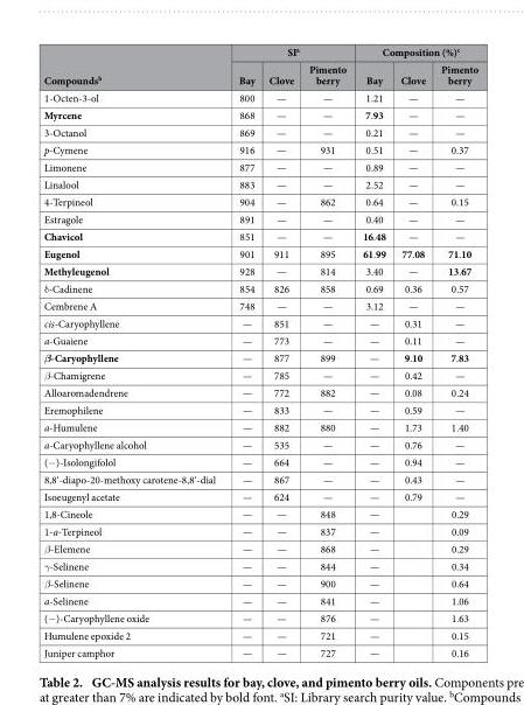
<table><thead><tr><td rowspan="2">Compounds<sup>b</sup></td><td colspan="3">SI<sup>a</sup></td><td colspan="3">Composition (%)<sup>c</sup></td></tr><tr><td>Bay</td><td>Clove</td><td>Pimento berry</td><td>Bay</td><td>Clove</td><td>Pimento berry</td></tr></thead><tbody><tr><td>1-Octen-3-ol</td><td>800</td><td>—</td><td>—</td><td>1.21</td><td>—</td><td>—</td></tr><tr><td>Myrcene</td><td>868</td><td>—</td><td>—</td><td>7.93</td><td>—</td><td>—</td></tr><tr><td>3-Octanol</td><td>869</td><td>—</td><td>—</td><td>0.21</td><td>—</td><td>—</td></tr><tr><td>p-Cymene</td><td>916</td><td>—</td><td>931</td><td>0.51</td><td>—</td><td>0.37</td></tr><tr><td>Limonene</td><td>877</td><td>—</td><td>—</td><td>0.89</td><td>—</td><td>—</td></tr><tr><td>Linalool</td><td>883</td><td>—</td><td>—</td><td>2.52</td><td>—</td><td>—</td></tr><tr><td>4-Terpineol</td><td>904</td><td>—</td><td>862</td><td>0.64</td><td>—</td><td>0.15</td></tr><tr><td>Estragole</td><td>891</td><td>—</td><td>—</td><td>0.40</td><td>—</td><td>—</td></tr><tr><td>Chavicol</td><td>851</td><td>—</td><td>—</td><td>16.48</td><td>—</td><td>—</td></tr><tr><td>Eugenol</td><td>901</td><td>911</td><td>895</td><td>61.99</td><td>77.08</td><td>71.10</td></tr><tr><td>Methyleugenol</td><td>928</td><td>—</td><td>814</td><td>3.40</td><td>—</td><td>13.67</td></tr><tr><td>δ -Cadinene</td><td>854</td><td>826</td><td>858</td><td>0.69</td><td>0.36</td><td>0.57</td></tr><tr><td>Cembrene A</td><td>748</td><td>—</td><td>—</td><td>3.12</td><td>—</td><td>—</td></tr><tr><td>cis-Caryophyllene</td><td>—</td><td>851</td><td>—</td><td>—</td><td>0.31</td><td>—</td></tr><tr><td>a-Guaiene</td><td>—</td><td>773</td><td>—</td><td>—</td><td>0.11</td><td>—</td></tr><tr><td>β-Caryophyllene</td><td>—</td><td>877</td><td>899</td><td>—</td><td>9.10</td><td>7.83</td></tr><tr><td>β-Chamigrene</td><td>—</td><td>785</td><td>—</td><td>—</td><td>0.42</td><td>—</td></tr><tr><td>Alloaromadendrene</td><td>—</td><td>772</td><td>882</td><td>—</td><td>0.08</td><td>0.24</td></tr><tr><td>Eremophilene</td><td>—</td><td>833</td><td>—</td><td>—</td><td>0.59</td><td>—</td></tr><tr><td>a-Humulene</td><td>—</td><td>882</td><td>880</td><td>—</td><td>1.73</td><td>1.40</td></tr><tr><td>a-Caryophyllene alcohol</td><td>—</td><td>535</td><td>—</td><td>—</td><td>0.76</td><td>—</td></tr><tr><td>(− )-Isolongifolol</td><td>—</td><td>664</td><td>—</td><td>—</td><td>0.94</td><td>—</td></tr><tr><td>8,8‘-diapo-20-methoxy carotene-8,8‘-dial</td><td>—</td><td>867</td><td>—</td><td>—</td><td>0.43</td><td>—</td></tr><tr><td>Isoeugenyl acetate</td><td>—</td><td>624</td><td>—</td><td>—</td><td>0.79</td><td>—</td></tr><tr><td>1,8-Cineole</td><td>—</td><td>—</td><td>848</td><td>—</td><td></td><td>0.29</td></tr><tr><td>1-a-Terpineol</td><td>—</td><td>—</td><td>837</td><td>—</td><td></td><td>0.09</td></tr><tr><td>β-Elemene</td><td>—</td><td>—</td><td>868</td><td>—</td><td></td><td>0.29</td></tr><tr><td>γ-Selinene</td><td>—</td><td>—</td><td>844</td><td>—</td><td></td><td>0.34</td></tr><tr><td>β-Selinene</td><td>—</td><td>—</td><td>900</td><td>—</td><td></td><td>0.64</td></tr><tr><td>a-Selinene</td><td>—</td><td>—</td><td>841</td><td>—</td><td></td><td>1.06</td></tr><tr><td>(− )-Caryophyllene oxide</td><td>—</td><td>—</td><td>876</td><td>—</td><td></td><td>1.63</td></tr><tr><td>Humulene epoxide 2</td><td>—</td><td>—</td><td>721</td><td>—</td><td></td><td>0.15</td></tr><tr><td>Juniper camphor</td><td>—</td><td>—</td><td>727</td><td>—</td><td></td><td>0.16</td></tr></tbody></table>